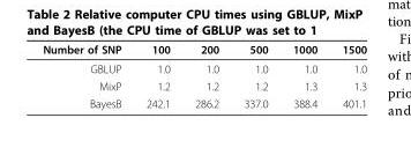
<table><thead><tr><td>Number of SNP</td><td>100</td><td>200</td><td>500</td><td>1000</td><td>1500</td></tr></thead><tbody><tr><td>GBLUP</td><td>1.0</td><td>1.0</td><td>1.0</td><td>1.0</td><td>1.0</td></tr><tr><td>MixP</td><td>1.2</td><td>1.2</td><td>1.2</td><td>1.3</td><td>1.3</td></tr><tr><td>BayesB</td><td>242.1</td><td>286.2</td><td>337.0</td><td>388.4</td><td>401.1</td></tr></tbody></table>